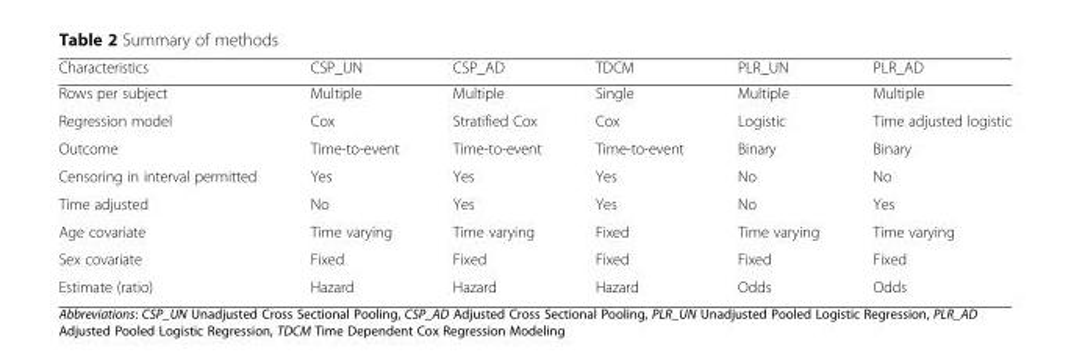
<table><thead><tr><td>Characteristics</td><td>CSP_UN</td><td>CSP_AD</td><td>TDCM</td><td>PLR_UN</td><td>PLR_AD</td></tr></thead><tbody><tr><td>Rows per subject</td><td>Multiple</td><td>Multiple</td><td>Single</td><td>Multiple</td><td>Multiple</td></tr><tr><td>Regression model</td><td>Cox</td><td>Stratified Cox</td><td>Cox</td><td>Logistic</td><td>Time adjusted logistic</td></tr><tr><td>Outcome</td><td>Time-to-event</td><td>Time-to-event</td><td>Time-to-event</td><td>Binary</td><td>Binary</td></tr><tr><td>Censoring in interval permitted</td><td>Yes</td><td>Yes</td><td>Yes</td><td>No</td><td>No</td></tr><tr><td>Time adjusted</td><td>No</td><td>Yes</td><td>Yes</td><td>No</td><td>Yes</td></tr><tr><td>Age covariate</td><td>Time varying</td><td>Time varying</td><td>Fixed</td><td>Time varying</td><td>Time varying</td></tr><tr><td>Sex covariate</td><td>Fixed</td><td>Fixed</td><td>Fixed</td><td>Fixed</td><td>Fixed</td></tr><tr><td>Estimate (ratio)</td><td>Hazard</td><td>Hazard</td><td>Hazard</td><td>Odds</td><td>Odds</td></tr></tbody></table>